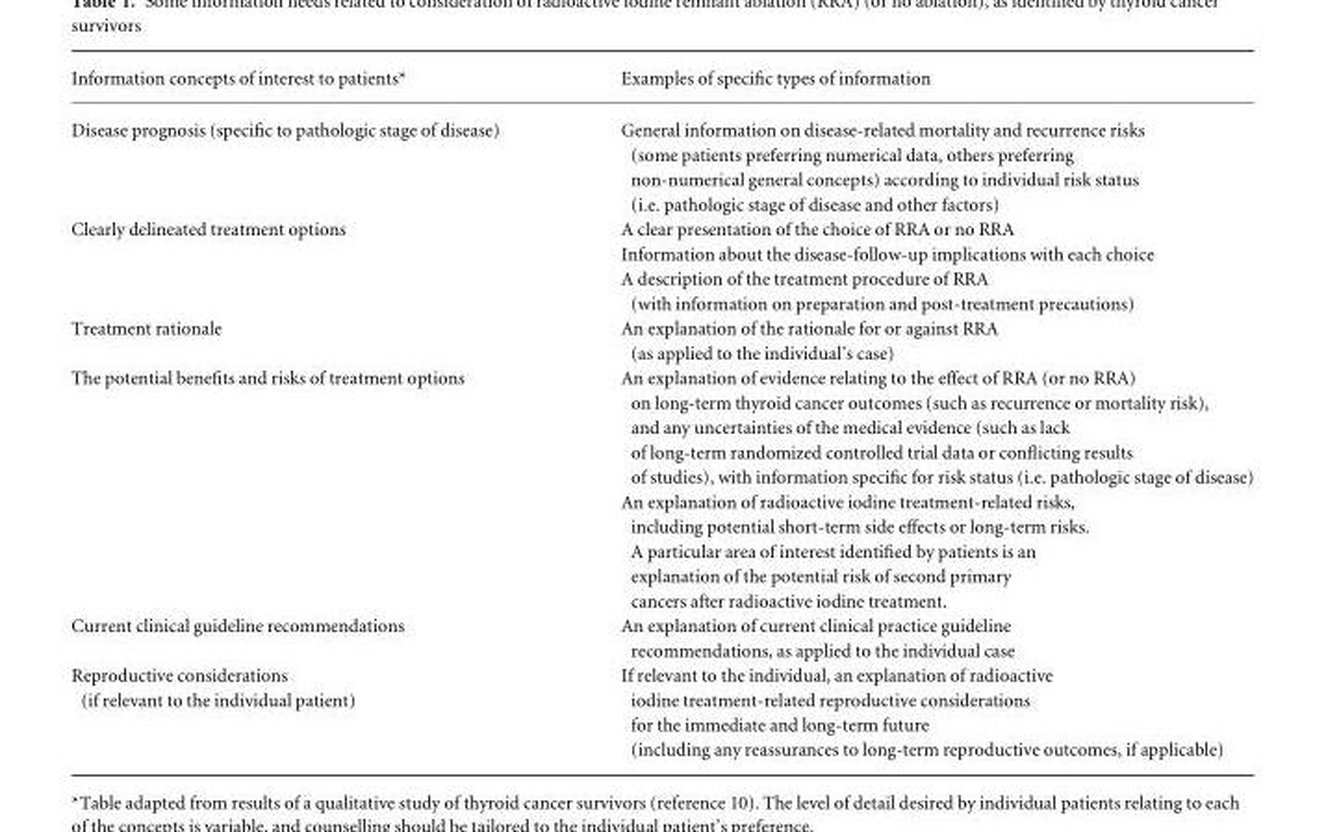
<table><thead><tr><td>Information concepts of interest to patients*</td><td>Examples of specific types of information</td></tr></thead><tbody><tr><td>Disease prognosis (specific to pathologic stage of disease)</td><td>General information on disease-related mortality and recurrence risks (some patients preferring numerical data, others preferring non-numerical general concepts) according to individual risk status (i.e. pathologic stage of disease and other factors)</td></tr><tr><td>Clearly delineated treatment options</td><td>A clear presentation of the choice of RRA or no RRA Information about the disease-follow-up implications with each choice A description of the treatment procedure of RRA (with information on preparation and post-treatment precautions)</td></tr><tr><td>Treatment rationale</td><td>An explanation of the rationale for or against RRA (as applied to the individual’s case)</td></tr><tr><td>The potential benefits and risks of treatment options</td><td>An explanation of evidence relating to the effect of RRA (or no RRA) on long-term thyroid cancer outcomes (such as recurrence or mortality risk), and any uncertainties of the medical evidence (such as lack of long-term randomized controlled trial data or conflicting results of studies), with information specific for risk status (i.e. pathologic stage of disease) An explanation of radioactive iodine treatment-related risks, including potential short-term side effects or long-term risks. A particular area of interest identified by patients is an explanation of the potential risk of second primary cancers after radioactive iodine treatment.</td></tr><tr><td>Current clinical guideline recommendations</td><td>An explanation of current clinical practice guideline recommendations, as applied to the individual case</td></tr><tr><td>Reproductive considerations (if relevant to the individual patient)</td><td>If relevant to the individual, an explanation of radioactive iodine treatment-related reproductive considerations for the immediate and long-term future (including any reassurances to long-term reproductive outcomes, if applicable)</td></tr></tbody></table>